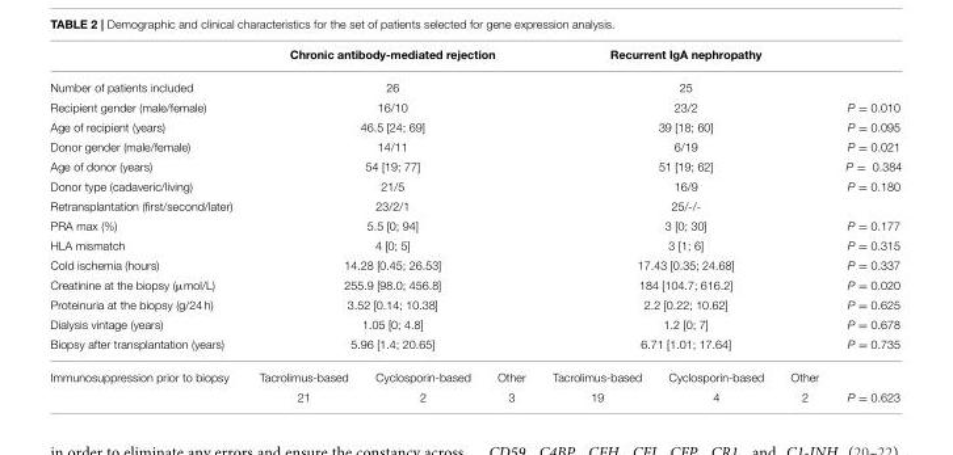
<table><thead><tr><td></td><td colspan="3">Chronic antibody-mediated rejection</td><td colspan="3">Recurrent IgA nephropathy</td><td></td></tr></thead><tbody><tr><td>Number of patients included</td><td colspan="3">26</td><td colspan="3">25</td><td></td></tr><tr><td>Recipient gender (male/female)</td><td colspan="3">16/10</td><td colspan="3">23/2</td><td>P = 0.010</td></tr><tr><td>Age of recipient (years)</td><td colspan="3">46.5 [24; 69]</td><td colspan="3">39 [18; 60]</td><td>P = 0.095</td></tr><tr><td>Donor gender (male/female)</td><td colspan="3">14/11</td><td colspan="3">6/19</td><td>P = 0.021</td></tr><tr><td>Age of donor (years)</td><td colspan="3">54 [19; 77]</td><td colspan="3">51 [19; 62]</td><td>P = 0.384</td></tr><tr><td>Donor type (cadaveric/living)</td><td colspan="3">21/5</td><td colspan="3">16/9</td><td>P = 0.180</td></tr><tr><td>Retransplantation (first/second/later)</td><td colspan="3">23/2/1</td><td colspan="3">25/-/-</td><td></td></tr><tr><td>PRA max (%)</td><td colspan="3">5.5 [0; 94]</td><td colspan="3">3 [0; 30]</td><td>P = 0.177</td></tr><tr><td>HLA mismatch</td><td colspan="3">4 [0; 5]</td><td colspan="3">3 [1; 6]</td><td>P = 0.315</td></tr><tr><td>Cold ischemia (hours)</td><td colspan="3">14.28 [0.45; 26.53]</td><td colspan="3">17.43 [0.35; 24.68]</td><td>P = 0.337</td></tr><tr><td>Creatinine at the biopsy (µmol/L)</td><td colspan="3">255.9 [98.0; 456.8]</td><td colspan="3">184 [104.7; 616.2]</td><td>P = 0.020</td></tr><tr><td>Proteinuria at the biopsy (g/24 h)</td><td colspan="3">3.52 [0.14; 10.38]</td><td colspan="3">2.2 [0.22; 10.62]</td><td>P = 0.625</td></tr><tr><td>Dialysis vintage (years)</td><td colspan="3">1.05 [0; 4.8]</td><td colspan="3">1.2 [0; 7]</td><td>P = 0.678</td></tr><tr><td>Biopsy after transplantation (years)</td><td colspan="3">5.96 [1.4; 20.65]</td><td colspan="3">6.71 [1.01; 17.64]</td><td>P = 0.735</td></tr><tr><td rowspan="2">Immunosuppression prior to biopsy</td><td>Tacrolimus-based</td><td>Cyclosporin-based</td><td>Other</td><td>Tacrolimus-based</td><td>Cyclosporin-based</td><td>Other</td><td></td></tr><tr><td>21</td><td>2</td><td>3</td><td>19</td><td>4</td><td>2</td><td>P = 0.623</td></tr></tbody></table>